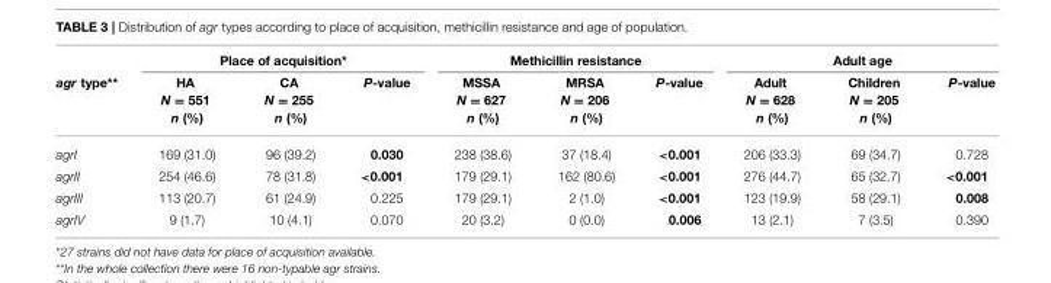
<table><thead><tr><td rowspan="2">agr type**</td><td colspan="3">Place of acquisition*</td><td colspan="3">Methicillin resistance</td><td colspan="3">Adult age</td></tr><tr><td>HA N = 551 n (%)</td><td>CA N = 255 n (%)</td><td>P-value</td><td>MSSA N = 627 n (%)</td><td>MRSA N = 206 n (%)</td><td>P-value</td><td>Adult N = 628 n (%)</td><td>Children N = 205 n (%)</td><td>P-value</td></tr></thead><tbody><tr><td>agrI</td><td>169 (31.0)</td><td>96 (39.2)</td><td>0.030</td><td>238 (38.6)</td><td>37 (18.4)</td><td>&lt;0.001</td><td>206 (33.3)</td><td>69 (34.7)</td><td>0.728</td></tr><tr><td>agrII</td><td>254 (46.6)</td><td>78 (31.8)</td><td>&lt;0.001</td><td>179 (29.1)</td><td>162 (80.6)</td><td>&lt;0.001</td><td>276 (44.7)</td><td>65 (32.7)</td><td>&lt;0.001</td></tr><tr><td>agrIII</td><td>113 (20.7)</td><td>61 (24.9)</td><td>0.225</td><td>179 (29.1)</td><td>2 (1.0)</td><td>&lt;0.001</td><td>123 (19.9)</td><td>58 (29.1)</td><td>0.008</td></tr><tr><td>agrIV</td><td>9 (1.7)</td><td>10 (4.1)</td><td>0.070</td><td>20 (3.2)</td><td>0 (0.0)</td><td>0.006</td><td>13 (2.1)</td><td>7 (3.5)</td><td>0.390</td></tr></tbody></table>